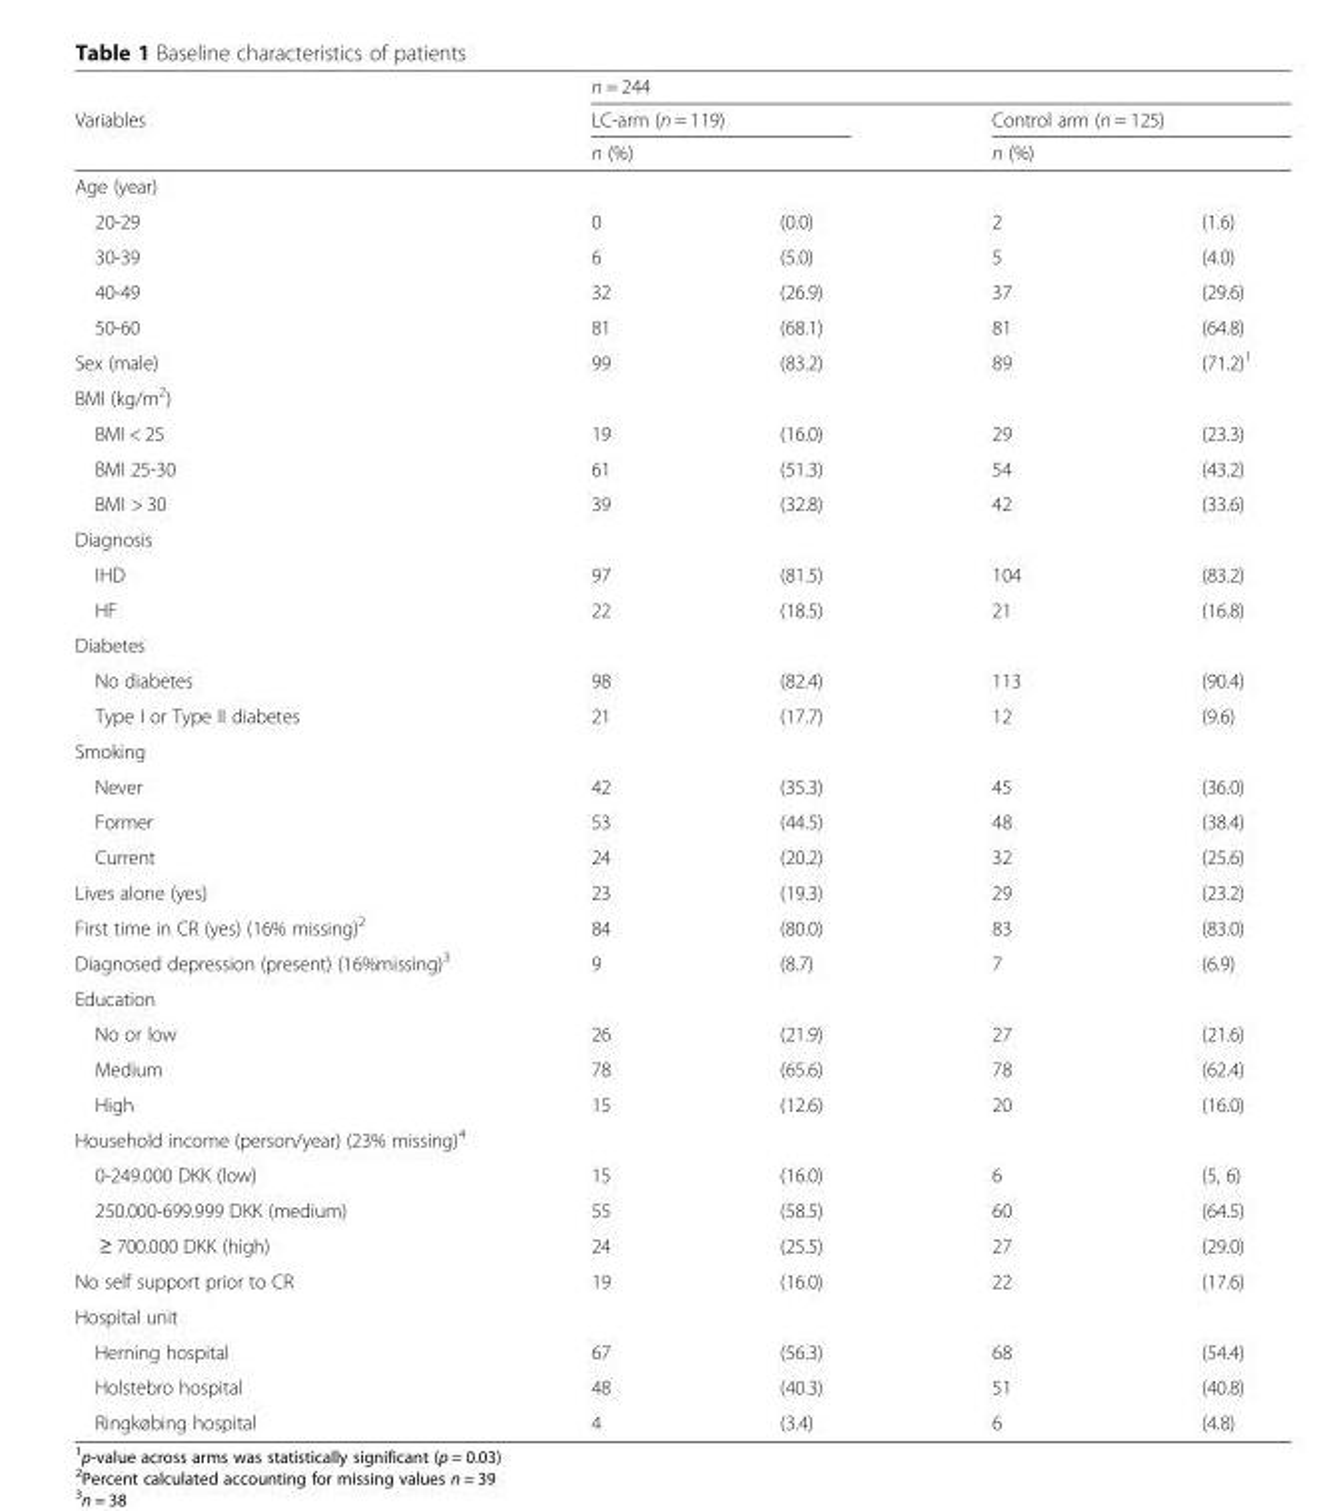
<table><thead><tr><td rowspan="3">Variables</td><td colspan="4">n = 244</td></tr><tr><td rowspan="2" colspan="2">LC-arm (n = 119) n (%)</td><td rowspan="2" colspan="2">Control arm (n = 125) n (%)</td></tr><tr></tr><tr><td colspan="5">Age (year)</td></tr><tr><td>20-29</td><td>0</td><td>(0.0)</td><td>2</td><td>(1.6)</td></tr></thead><tbody><tr><td>30-39</td><td>6</td><td>(5.0)</td><td>5</td><td>(4.0)</td></tr><tr><td>40-49</td><td>32</td><td>(26.9)</td><td>37</td><td>(29.6)</td></tr><tr><td>50-60</td><td>81</td><td>(68.1)</td><td>81</td><td>(64.8)</td></tr><tr><td>Sex (male)</td><td>99</td><td>(83.2)</td><td>89</td><td>(71.2)<sup>1</sup></td></tr><tr><td colspan="5">BMI (kg/m<sup>2</sup>)</td></tr><tr><td>BMI &lt; 25</td><td>19</td><td>(16.0)</td><td>29</td><td>(23.3)</td></tr><tr><td>BMI 25-30</td><td>61</td><td>(51.3)</td><td>54</td><td>(43.2)</td></tr><tr><td>BMI &gt; 30</td><td>39</td><td>(32.8)</td><td>42</td><td>(33.6)</td></tr><tr><td colspan="5">Diagnosis</td></tr><tr><td>IHD</td><td>97</td><td>(81.5)</td><td>104</td><td>(83.2)</td></tr><tr><td>HF</td><td>22</td><td>(18.5)</td><td>21</td><td>(16.8)</td></tr><tr><td colspan="5">Diabetes</td></tr><tr><td>No diabetes</td><td>98</td><td>(82.4)</td><td>113</td><td>(90.4)</td></tr><tr><td>Type I or Type II diabetes</td><td>21</td><td>(17.7)</td><td>12</td><td>(9.6)</td></tr><tr><td colspan="5">Smoking</td></tr><tr><td>Never</td><td>42</td><td>(35.3)</td><td>45</td><td>(36.0)</td></tr><tr><td>Former</td><td>53</td><td>(44.5)</td><td>48</td><td>(38.4)</td></tr><tr><td>Current</td><td>24</td><td>(20.2)</td><td>32</td><td>(25.6)</td></tr><tr><td>Lives alone (yes)</td><td>23</td><td>(19.3)</td><td>29</td><td>(23.2)</td></tr><tr><td>First time in CR (yes) (16% missing)<sup>2</sup></td><td>84</td><td>(80.0)</td><td>83</td><td>(83.0)</td></tr><tr><td>Diagnosed depression (present) (16%missing)<sup>3</sup></td><td>9</td><td>(8.7)</td><td>7</td><td>(6.9)</td></tr><tr><td colspan="5">Education</td></tr><tr><td>No or low</td><td>26</td><td>(21.9)</td><td>27</td><td>(21.6)</td></tr><tr><td>Medium</td><td>78</td><td>(65.6)</td><td>78</td><td>(62.4)</td></tr><tr><td>High</td><td>15</td><td>(12.6)</td><td>20</td><td>(16.0)</td></tr><tr><td colspan="5">Household income (person/year) (23% missing)<sup>4</sup></td></tr><tr><td>0-249.000 DKK (low)</td><td>15</td><td>(16.0)</td><td>6</td><td>(5, 6)</td></tr><tr><td>250.000-699.999 DKK (medium)</td><td>55</td><td>(58.5)</td><td>60</td><td>(64.5)</td></tr><tr><td>≥ 700.000 DKK (high)</td><td>24</td><td>(25.5)</td><td>27</td><td>(29.0)</td></tr><tr><td>No self support prior to CR</td><td>19</td><td>(16.0)</td><td>22</td><td>(17.6)</td></tr><tr><td colspan="5">Hospital unit</td></tr><tr><td>Herning hospital</td><td>67</td><td>(56.3)</td><td>68</td><td>(54.4)</td></tr><tr><td>Holstebro hospital</td><td>48</td><td>(40.3)</td><td>51</td><td>(40.8)</td></tr><tr><td>Ringkøbing hospital</td><td>4</td><td>(3.4)</td><td>6</td><td>(4.8)</td></tr></tbody></table>